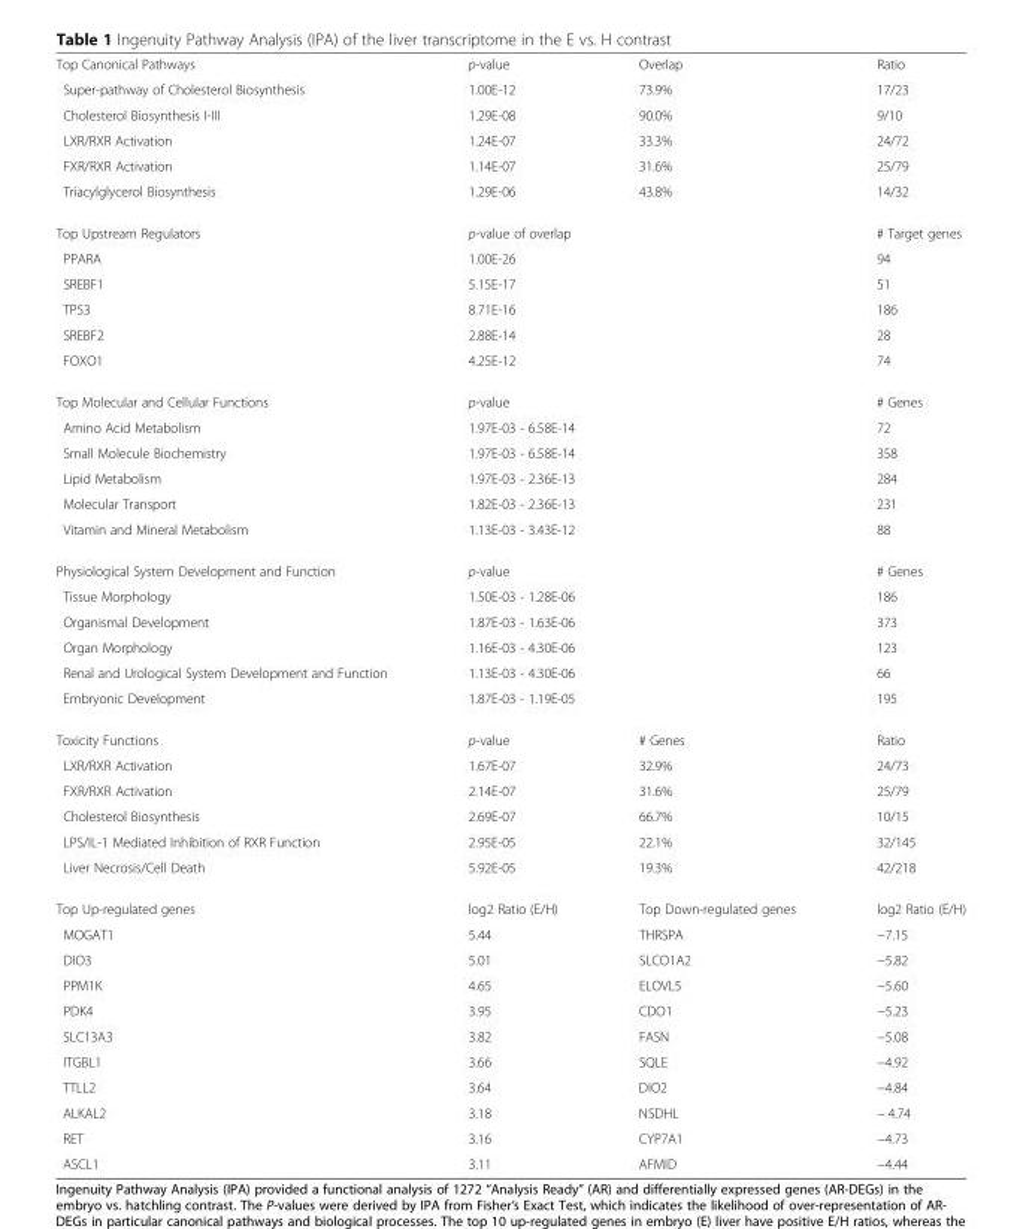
<table><tbody><tr><td>Top Canonical Pathways</td><td>p-value</td><td>Overlap</td><td>Ratio</td></tr><tr><td>Super-pathway of Cholesterol Biosynthesis</td><td>1.00E-12</td><td>73.9%</td><td>17/23</td></tr><tr><td>Cholesterol Biosynthesis I-III</td><td>1.29E-08</td><td>90.0%</td><td>9/10</td></tr><tr><td>LXR/RXR Activation</td><td>1.24E-07</td><td>33.3%</td><td>24/72</td></tr><tr><td>FXR/RXR Activation</td><td>1.14E-07</td><td>31.6%</td><td>25/79</td></tr><tr><td>Triacylglycerol Biosynthesis</td><td>1.29E-06</td><td>43.8%</td><td>14/32</td></tr><tr><td>Top Upstream Regulators</td><td colspan="2">p-value of overlap</td><td># Target genes</td></tr><tr><td>PPARA</td><td colspan="2">1.00E-26</td><td>94</td></tr><tr><td>SREBF1</td><td colspan="2">5.15E-17</td><td>51</td></tr><tr><td>TP53</td><td colspan="2">8.71E-16</td><td>186</td></tr><tr><td>SREBF2</td><td colspan="2">2.88E-14</td><td>28</td></tr><tr><td>FOXO1</td><td colspan="2">4.25E-12</td><td>74</td></tr><tr><td>Top Molecular and Cellular Functions</td><td colspan="2">p-value</td><td># Genes</td></tr><tr><td>Amino Acid Metabolism</td><td colspan="2">1.97E-03 - 6.58E-14</td><td>72</td></tr><tr><td>Small Molecule Biochemistry</td><td colspan="2">1.97E-03 - 6.58E-14</td><td>358</td></tr><tr><td>Lipid Metabolism</td><td colspan="2">1.97E-03 - 2.36E-13</td><td>284</td></tr><tr><td>Molecular Transport</td><td colspan="2">1.82E-03 - 2.36E-13</td><td>231</td></tr><tr><td>Vitamin and Mineral Metabolism</td><td colspan="2">1.13E-03 - 3.43E-12</td><td>88</td></tr><tr><td>Physiological System Development and Function</td><td colspan="2">p-value</td><td># Genes</td></tr><tr><td>Tissue Morphology</td><td colspan="2">1.50E-03 - 1.28E-06</td><td>186</td></tr><tr><td>Organismal Development</td><td colspan="2">1.87E-03 - 1.63E-06</td><td>373</td></tr><tr><td>Organ Morphology</td><td colspan="2">1.16E-03 - 4.30E-06</td><td>123</td></tr><tr><td>Renal and Urological System Development and Function</td><td colspan="2">1.13E-03 - 4.30E-06</td><td>66</td></tr><tr><td>Embryonic Development</td><td colspan="2">1.87E-03 - 1.19E-05</td><td>195</td></tr><tr><td>Toxicity Functions</td><td>p-value</td><td># Genes</td><td>Ratio</td></tr><tr><td>LXR/RXR Activation</td><td>1.67E-07</td><td>32.9%</td><td>24/73</td></tr><tr><td>FXR/RXR Activation</td><td>2.14E-07</td><td>31.6%</td><td>25/79</td></tr><tr><td>Cholesterol Biosynthesis</td><td>2.69E-07</td><td>66.7%</td><td>10/15</td></tr><tr><td>LPS/IL-1 Mediated Inhibition of RXR Function</td><td>2.95E-05</td><td>22.1%</td><td>32/145</td></tr><tr><td>Liver Necrosis/Cell Death</td><td>5.92E-05</td><td>19.3%</td><td>42/218</td></tr><tr><td>Top Up-regulated genes</td><td>log2 Ratio (E/H)</td><td>Top Down-regulated genes</td><td>log2 Ratio (E/H)</td></tr><tr><td>MOGAT1</td><td>5.44</td><td>THRSPA</td><td>−7.15</td></tr><tr><td>DIO3</td><td>5.01</td><td>SLCO1A2</td><td>−5.82</td></tr><tr><td>PPM1K</td><td>4.65</td><td>ELOVL5</td><td>−5.60</td></tr><tr><td>PDK4</td><td>3.95</td><td>CDO1</td><td>−5.23</td></tr><tr><td>SLC13A3</td><td>3.82</td><td>FASN</td><td>−5.08</td></tr><tr><td>ITGBL1</td><td>3.66</td><td>SQLE</td><td>−4.92</td></tr><tr><td>TTLL2</td><td>3.64</td><td>DIO2</td><td>−4.84</td></tr><tr><td>ALKAL2</td><td>3.18</td><td>NSDHL</td><td>− 4.74</td></tr><tr><td>RET</td><td>3.16</td><td>CYP7A1</td><td>−4.73</td></tr><tr><td>ASCL1</td><td>3.11</td><td>AFMID</td><td>−4.44</td></tr></tbody></table>